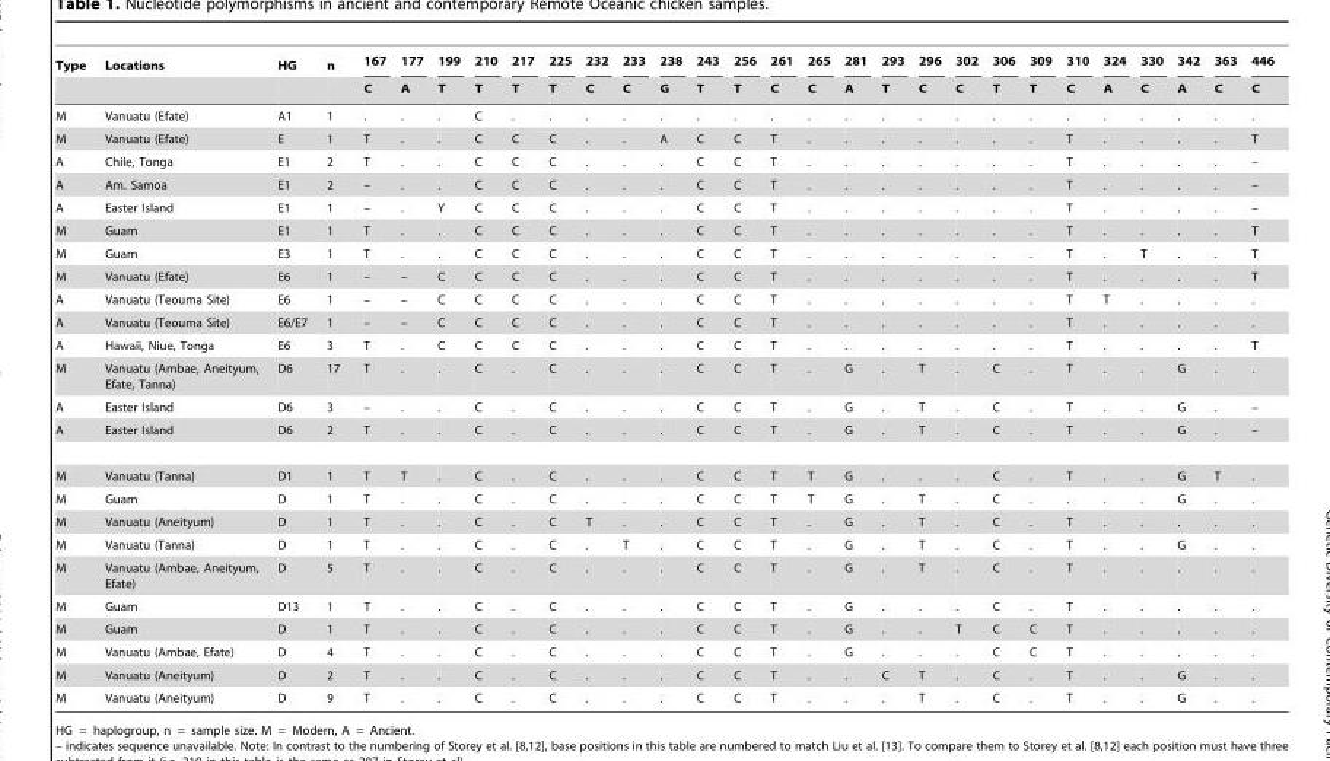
<table><thead><tr><td rowspan="2">Type</td><td rowspan="2">Locations</td><td rowspan="2">HG</td><td rowspan="2">n</td><td rowspan="2">167 C</td><td rowspan="2">177 A</td><td rowspan="2">199 T</td><td rowspan="2">210 T</td><td rowspan="2">217 T</td><td rowspan="2">225 T</td><td rowspan="2">232 C</td><td rowspan="2">233 C</td><td rowspan="2">238 G</td><td rowspan="2">243 T</td><td rowspan="2">256 T</td><td rowspan="2">261 C</td><td rowspan="2">265 C</td><td rowspan="2">281 A</td><td rowspan="2">293 T</td><td rowspan="2">296 C</td><td rowspan="2">302 C</td><td rowspan="2">306 T</td><td rowspan="2">309 T</td><td rowspan="2">310 C</td><td rowspan="2">324 A</td><td rowspan="2">330 C</td><td rowspan="2">342 A</td><td rowspan="2">363 C</td><td rowspan="2">446 C</td></tr><tr></tr></thead><tbody><tr><td>M</td><td>Vanuatu (Efate)</td><td>A1</td><td>1</td><td>.</td><td>.</td><td>.</td><td>C</td><td>.</td><td>.</td><td>.</td><td>.</td><td>.</td><td>.</td><td>.</td><td>.</td><td>.</td><td>.</td><td>.</td><td>.</td><td>.</td><td>.</td><td>.</td><td>.</td><td>.</td><td>.</td><td>.</td><td>.</td><td>.</td></tr><tr><td>M</td><td>Vanuatu (Efate)</td><td>E</td><td>1</td><td>T</td><td>.</td><td>.</td><td>C</td><td>C</td><td>C</td><td>.</td><td>.</td><td>A</td><td>C</td><td>C</td><td>T</td><td>.</td><td>.</td><td>.</td><td>.</td><td>.</td><td>.</td><td>.</td><td>T</td><td>.</td><td>.</td><td>.</td><td>.</td><td>T</td></tr><tr><td>A</td><td>Chile, Tonga</td><td>E1</td><td>2</td><td>T</td><td>.</td><td>.</td><td>C</td><td>C</td><td>C</td><td>.</td><td>.</td><td>.</td><td>C</td><td>C</td><td>T</td><td>.</td><td>.</td><td>.</td><td>.</td><td>.</td><td>.</td><td>.</td><td>T</td><td>.</td><td>.</td><td>.</td><td>.</td><td>–</td></tr><tr><td>A</td><td>Am. Samoa</td><td>E1</td><td>2</td><td>–</td><td>.</td><td>.</td><td>C</td><td>C</td><td>C</td><td>.</td><td>.</td><td>.</td><td>C</td><td>C</td><td>T</td><td>.</td><td>.</td><td>.</td><td>.</td><td>.</td><td>.</td><td>.</td><td>T</td><td>.</td><td>.</td><td>.</td><td>.</td><td>–</td></tr><tr><td>A</td><td>Easter Island</td><td>E1</td><td>1</td><td>–</td><td>.</td><td>Y</td><td>C</td><td>C</td><td>C</td><td>.</td><td>.</td><td>.</td><td>C</td><td>C</td><td>T</td><td>.</td><td>.</td><td>.</td><td>.</td><td>.</td><td>.</td><td>.</td><td>T</td><td>.</td><td>.</td><td>.</td><td>.</td><td>–</td></tr><tr><td>M</td><td>Guam</td><td>E1</td><td>1</td><td>T</td><td>.</td><td>.</td><td>C</td><td>C</td><td>C</td><td>.</td><td>.</td><td>.</td><td>C</td><td>C</td><td>T</td><td>.</td><td>.</td><td>.</td><td>.</td><td>.</td><td>.</td><td>.</td><td>T</td><td>.</td><td>.</td><td>.</td><td>.</td><td>T</td></tr><tr><td>M</td><td>Guam</td><td>E3</td><td>1</td><td>T</td><td>.</td><td>.</td><td>C</td><td>C</td><td>C</td><td>.</td><td>.</td><td>.</td><td>C</td><td>C</td><td>T</td><td>.</td><td>.</td><td>.</td><td>.</td><td>.</td><td>.</td><td>.</td><td>T</td><td>.</td><td>T</td><td>.</td><td>.</td><td>T</td></tr><tr><td>M</td><td>Vanuatu (Efate)</td><td>E6</td><td>1</td><td>–</td><td>–</td><td>C</td><td>C</td><td>C</td><td>C</td><td>.</td><td>.</td><td>.</td><td>C</td><td>C</td><td>T</td><td>.</td><td>.</td><td>.</td><td>.</td><td>.</td><td>.</td><td>.</td><td>T</td><td>.</td><td>.</td><td>.</td><td>.</td><td>T</td></tr><tr><td>A</td><td>Vanuatu (Teouma Site)</td><td>E6</td><td>1</td><td>–</td><td>–</td><td>C</td><td>C</td><td>C</td><td>C</td><td>.</td><td>.</td><td>.</td><td>C</td><td>C</td><td>T</td><td>.</td><td>.</td><td>.</td><td>.</td><td>.</td><td>.</td><td>.</td><td>T</td><td>T</td><td>.</td><td>.</td><td>.</td><td>.</td></tr><tr><td>A</td><td>Vanuatu (Teouma Site)</td><td>E6/E7</td><td>1</td><td>–</td><td>–</td><td>C</td><td>C</td><td>C</td><td>C</td><td>.</td><td>.</td><td>.</td><td>C</td><td>C</td><td>T</td><td>.</td><td>.</td><td>.</td><td>.</td><td>.</td><td>.</td><td>.</td><td>T</td><td>.</td><td>.</td><td>.</td><td>.</td><td>.</td></tr><tr><td>A</td><td>Hawaii, Niue, Tonga</td><td>E6</td><td>3</td><td>T</td><td>.</td><td>C</td><td>C</td><td>C</td><td>C</td><td>.</td><td>.</td><td>.</td><td>C</td><td>C</td><td>T</td><td>.</td><td>.</td><td>.</td><td>.</td><td>.</td><td>.</td><td>.</td><td>T</td><td>.</td><td>.</td><td>.</td><td>.</td><td>T</td></tr><tr><td>M</td><td>Vanuatu (Ambae, Aneityum, Efate, Tanna)</td><td>D6</td><td>17</td><td>T</td><td>.</td><td>.</td><td>C</td><td>.</td><td>C</td><td>.</td><td>.</td><td>.</td><td>C</td><td>C</td><td>T</td><td>.</td><td>G</td><td>.</td><td>T</td><td>.</td><td>C</td><td>.</td><td>T</td><td>.</td><td>.</td><td>G</td><td>.</td><td>.</td></tr><tr><td>A</td><td>Easter Island</td><td>D6</td><td>3</td><td>–</td><td>.</td><td>.</td><td>C</td><td>.</td><td>C</td><td>.</td><td>.</td><td>.</td><td>C</td><td>C</td><td>T</td><td>.</td><td>G</td><td>.</td><td>T</td><td>.</td><td>C</td><td>.</td><td>T</td><td>.</td><td>.</td><td>G</td><td>.</td><td>–</td></tr><tr><td>A</td><td>Easter Island</td><td>D6</td><td>2</td><td>T</td><td>.</td><td>.</td><td>C</td><td>.</td><td>C</td><td>.</td><td>.</td><td>.</td><td>C</td><td>C</td><td>T</td><td>.</td><td>G</td><td>.</td><td>T</td><td>.</td><td>C</td><td>.</td><td>T</td><td>.</td><td>.</td><td>G</td><td>.</td><td>–</td></tr><tr><td>M</td><td>Vanuatu (Tanna)</td><td>D1</td><td>1</td><td>T</td><td>T</td><td>.</td><td>C</td><td>.</td><td>C</td><td>.</td><td>.</td><td>.</td><td>C</td><td>C</td><td>T</td><td>T</td><td>G</td><td>.</td><td>.</td><td>.</td><td>C</td><td>.</td><td>T</td><td>.</td><td>.</td><td>G</td><td>T</td><td>.</td></tr><tr><td>M</td><td>Guam</td><td>D</td><td>1</td><td>T</td><td>.</td><td>.</td><td>C</td><td>.</td><td>C</td><td>.</td><td>.</td><td>.</td><td>C</td><td>C</td><td>T</td><td>T</td><td>G</td><td>.</td><td>T</td><td>.</td><td>C</td><td>.</td><td>.</td><td>.</td><td>.</td><td>G</td><td>.</td><td>.</td></tr><tr><td>M</td><td>Vanuatu (Aneityum)</td><td>D</td><td>1</td><td>T</td><td>.</td><td>.</td><td>C</td><td>.</td><td>C</td><td>T</td><td>.</td><td>.</td><td>C</td><td>C</td><td>T</td><td>.</td><td>G</td><td>.</td><td>T</td><td>.</td><td>C</td><td>.</td><td>T</td><td>.</td><td>.</td><td>.</td><td>.</td><td>.</td></tr><tr><td>M</td><td>Vanuatu (Tanna)</td><td>D</td><td>1</td><td>T</td><td>.</td><td>.</td><td>C</td><td>.</td><td>C</td><td>.</td><td>T</td><td>.</td><td>C</td><td>C</td><td>T</td><td>.</td><td>G</td><td>.</td><td>T</td><td>.</td><td>C</td><td>.</td><td>T</td><td>.</td><td>.</td><td>G</td><td>.</td><td>.</td></tr><tr><td>M</td><td>Vanuatu (Ambae, Aneityum, Efate)</td><td>D</td><td>5</td><td>T</td><td>.</td><td>.</td><td>C</td><td>.</td><td>C</td><td>.</td><td>.</td><td>.</td><td>C</td><td>C</td><td>T</td><td>.</td><td>G</td><td>.</td><td>T</td><td>.</td><td>C</td><td>.</td><td>T</td><td>.</td><td>.</td><td>.</td><td>.</td><td>.</td></tr><tr><td>M</td><td>Guam</td><td>D13</td><td>1</td><td>T</td><td>.</td><td>.</td><td>C</td><td>.</td><td>C</td><td>.</td><td>.</td><td>.</td><td>C</td><td>C</td><td>T</td><td>.</td><td>G</td><td>.</td><td>.</td><td>.</td><td>C</td><td>.</td><td>T</td><td>.</td><td>.</td><td>.</td><td>.</td><td>.</td></tr><tr><td>M</td><td>Guam</td><td>D</td><td>1</td><td>T</td><td>.</td><td>.</td><td>C</td><td>.</td><td>C</td><td>.</td><td>.</td><td>.</td><td>C</td><td>C</td><td>T</td><td>.</td><td>G</td><td>.</td><td>.</td><td>T</td><td>C</td><td>C</td><td>T</td><td>.</td><td>.</td><td>.</td><td>.</td><td>.</td></tr><tr><td>M</td><td>Vanuatu (Ambae, Efate)</td><td>D</td><td>4</td><td>T</td><td>.</td><td>.</td><td>C</td><td>.</td><td>C</td><td>.</td><td>.</td><td>.</td><td>C</td><td>C</td><td>T</td><td>.</td><td>G</td><td>.</td><td>.</td><td>.</td><td>C</td><td>C</td><td>T</td><td>.</td><td>.</td><td>.</td><td>.</td><td>.</td></tr><tr><td>M</td><td>Vanuatu (Aneityum)</td><td>D</td><td>2</td><td>T</td><td>.</td><td>.</td><td>C</td><td>.</td><td>C</td><td>.</td><td>.</td><td>.</td><td>C</td><td>C</td><td>T</td><td>.</td><td>.</td><td>C</td><td>T</td><td>.</td><td>C</td><td>.</td><td>T</td><td>.</td><td>.</td><td>G</td><td>.</td><td>.</td></tr><tr><td>M</td><td>Vanuatu (Aneityum)</td><td>D</td><td>9</td><td>T</td><td>.</td><td>.</td><td>C</td><td>.</td><td>C</td><td>.</td><td>.</td><td>.</td><td>C</td><td>C</td><td>T</td><td>.</td><td>.</td><td>.</td><td>T</td><td>.</td><td>C</td><td>.</td><td>T</td><td>.</td><td>.</td><td>G</td><td>.</td><td>.</td></tr></tbody></table>